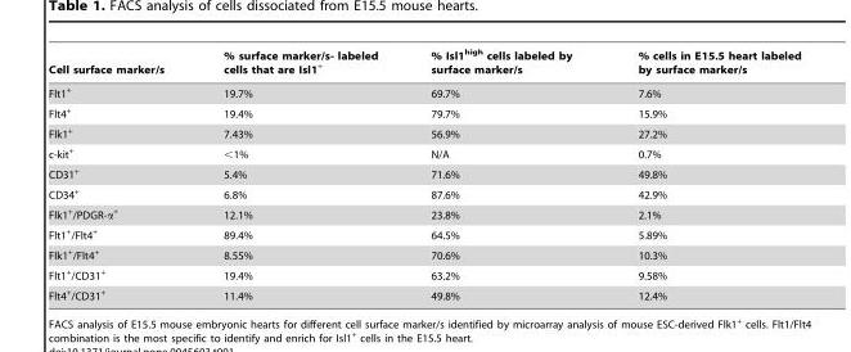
<table><thead><tr><td>Cell surface marker/s</td><td>% surface marker/s- labeled cells that are Isl1<sup>+</sup></td><td>% Isl1<sup>high</sup> cells labeled by surface marker/s</td><td>% cells in E15.5 heart labeled by surface marker/s</td></tr></thead><tbody><tr><td>Flt1<sup>+</sup></td><td>19.7%</td><td>69.7%</td><td>7.6%</td></tr><tr><td>Flt4<sup>+</sup></td><td>19.4%</td><td>79.7%</td><td>15.9%</td></tr><tr><td>Flk1<sup>+</sup></td><td>7.43%</td><td>56.9%</td><td>27.2%</td></tr><tr><td>c-kit<sup>+</sup></td><td>&lt;1%</td><td>N/A</td><td>0.7%</td></tr><tr><td>CD31<sup>+</sup></td><td>5.4%</td><td>71.6%</td><td>49.8%</td></tr><tr><td>CD34<sup>+</sup></td><td>6.8%</td><td>87.6%</td><td>42.9%</td></tr><tr><td>Flk1<sup>+</sup>/PDGR-α<sup>+</sup></td><td>12.1%</td><td>23.8%</td><td>2.1%</td></tr><tr><td>Flt1<sup>+</sup>/Flt4<sup>+</sup></td><td>89.4%</td><td>64.5%</td><td>5.89%</td></tr><tr><td>Flk1<sup>+</sup>/Flt4<sup>+</sup></td><td>8.55%</td><td>70.6%</td><td>10.3%</td></tr><tr><td>Flt1<sup>+</sup>/CD31<sup>+</sup></td><td>19.4%</td><td>63.2%</td><td>9.58%</td></tr><tr><td>Flt4<sup>+</sup>/CD31<sup>+</sup></td><td>11.4%</td><td>49.8%</td><td>12.4%</td></tr></tbody></table>